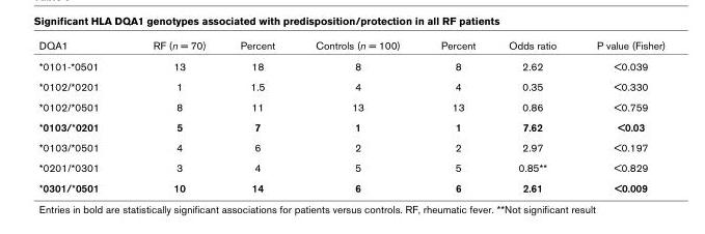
<table><thead><tr><td>DQA1</td><td>RF (n = 70)</td><td>Percent</td><td>Controls (n = 100)</td><td>Percent</td><td>Odds ratio</td><td>P value (Fisher)</td></tr></thead><tbody><tr><td>*0101-*0501</td><td>13</td><td>18</td><td>8</td><td>8</td><td>2.62</td><td>&lt;0.039</td></tr><tr><td>*0102/*0201</td><td>1</td><td>1.5</td><td>4</td><td>4</td><td>0.35</td><td>&lt;0.330</td></tr><tr><td>*0102/*0501</td><td>8</td><td>11</td><td>13</td><td>13</td><td>0.86</td><td>&lt;0.759</td></tr><tr><td>*0103/*0201</td><td>5</td><td>7</td><td>1</td><td>1</td><td>7.62</td><td>&lt;0.03</td></tr><tr><td>*0103/*0501</td><td>4</td><td>6</td><td>2</td><td>2</td><td>2.97</td><td>&lt;0.197</td></tr><tr><td>*0201/*0301</td><td>3</td><td>4</td><td>5</td><td>5</td><td>0.85**</td><td>&lt;0.829</td></tr><tr><td>*0301/*0501</td><td>10</td><td>14</td><td>6</td><td>6</td><td>2.61</td><td>&lt;0.009</td></tr></tbody></table>